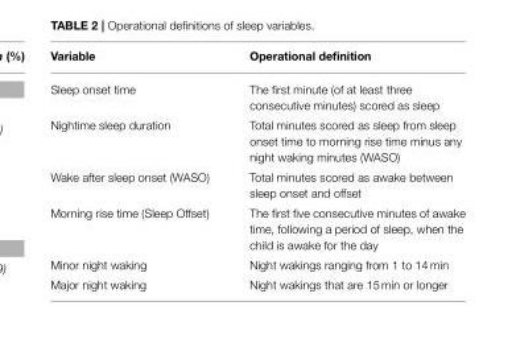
<table><thead><tr><td>Variable</td><td>Operational definition</td></tr></thead><tbody><tr><td>Sleep onset time</td><td>The first minute (of at least three consecutive minutes) scored as sleep</td></tr><tr><td>Nightime sleep duration</td><td>Total minutes scored as sleep from sleep onset time to morning rise time minus any night waking minutes (WASO)</td></tr><tr><td>Wake after sleep onset (WASO)</td><td>Total minutes scored as awake between sleep onset and offset</td></tr><tr><td>Morning rise time (Sleep Offset)</td><td>The first five consecutive minutes of awake time, following a period of sleep, when the child is awake for the day</td></tr><tr><td>Minor night waking</td><td>Night wakings ranging from 1 to 14 min</td></tr><tr><td>Major night waking</td><td>Night wakings that are 15 min or longer</td></tr></tbody></table>